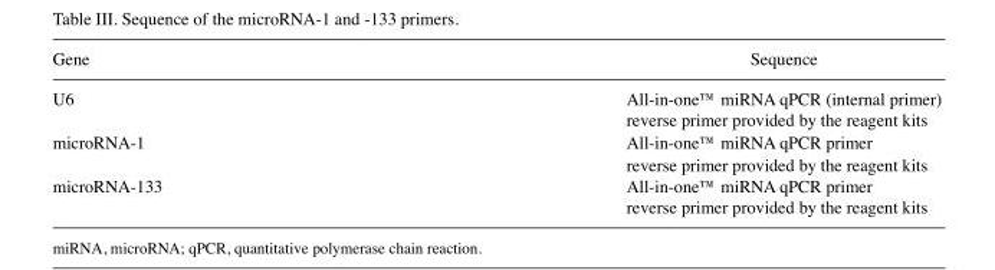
<table><thead><tr><td>Gene</td><td>Sequence</td></tr></thead><tbody><tr><td>U6</td><td>All‑in‑one™ miRNA qPCR (internal primer) reverse primer provided by the reagent kits</td></tr><tr><td>microRNA-1</td><td>All-in-one™ miRNA qPCR primer reverse primer provided by the reagent kits</td></tr><tr><td>microRNA-133</td><td>All-in-one™ miRNA qPCR primer reverse primer provided by the reagent kits</td></tr></tbody></table>